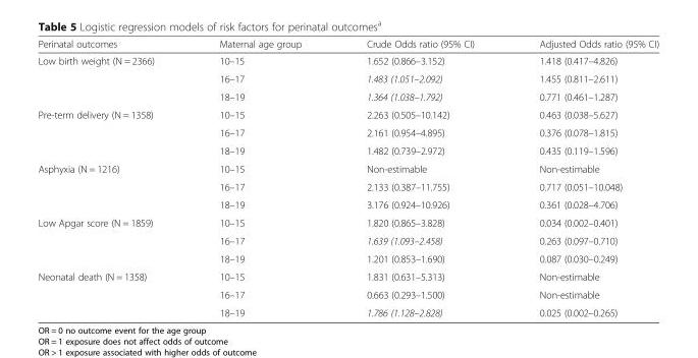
<table><thead><tr><td>Perinatal outcomes</td><td>Maternal age group</td><td>Crude Odds ratio (95% CI)</td><td>Adjusted Odds ratio (95% CI)</td></tr></thead><tbody><tr><td rowspan="3">Low birth weight (N = 2366)</td><td>10–15</td><td>1.652 (0.866–3.152)</td><td>1.418 (0.417–4.826)</td></tr><tr><td>16–17</td><td>1.483 (1.051–2.092)</td><td>1.455 (0.811–2.611)</td></tr><tr><td>18–19</td><td>1.364 (1.038–1.792)</td><td>0.771 (0.461–1.287)</td></tr><tr><td rowspan="3">Pre-term delivery (N = 1358)</td><td>10–15</td><td>2.263 (0.505–10.142)</td><td>0.463 (0.038–5.627)</td></tr><tr><td>16–17</td><td>2.161 (0.954–4.895)</td><td>0.376 (0.078–1.815)</td></tr><tr><td>18–19</td><td>1.482 (0.739–2.972)</td><td>0.435 (0.119–1.596)</td></tr><tr><td rowspan="3">Asphyxia (N = 1216)</td><td>10–15</td><td>Non-estimable</td><td>Non-estimable</td></tr><tr><td>16–17</td><td>2.133 (0.387–11.755)</td><td>0.717 (0.051–10.048)</td></tr><tr><td>18–19</td><td>3.176 (0.924–10.926)</td><td>0.361 (0.028–4.706)</td></tr><tr><td rowspan="3">Low Apgar score (N = 1859)</td><td>10–15</td><td>1.820 (0.865–3.828)</td><td>0.034 (0.002–0.401)</td></tr><tr><td>16–17</td><td>1.639 (1.093–2.458)</td><td>0.263 (0.097–0.710)</td></tr><tr><td>18–19</td><td>1.201 (0.853–1.690)</td><td>0.087 (0.030–0.249)</td></tr><tr><td rowspan="3">Neonatal death (N = 1358)</td><td>10–15</td><td>1.831 (0.631–5.313)</td><td>Non-estimable</td></tr><tr><td>16–17</td><td>0.663 (0.293–1.500)</td><td>Non-estimable</td></tr><tr><td>18–19</td><td>1.786 (1.128–2.828)</td><td>0.025 (0.002–0.265)</td></tr></tbody></table>